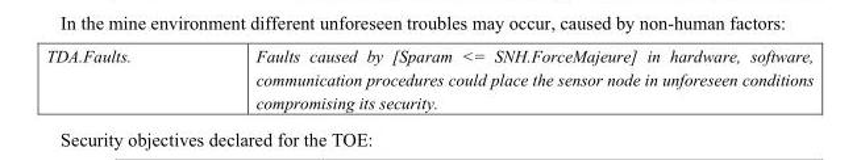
<table><tbody><tr><td>TDA.Faults.</td><td>Faults caused by [Sparam &lt;= SNH.ForceMajeure] in hardware, software, communication procedures could place the sensor node in unforeseen conditions compromising its security.</td></tr></tbody></table>